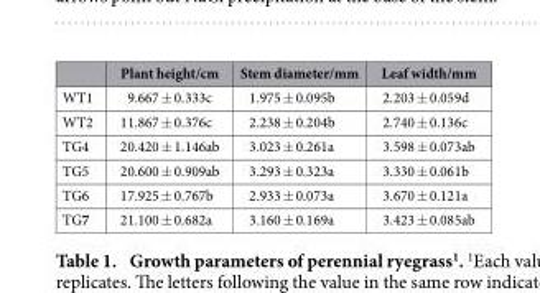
<table><thead><tr><td></td><td>Plant height/cm</td><td>Stem diameter/mm</td><td>Leaf width/mm</td></tr></thead><tbody><tr><td>WT1</td><td>9.667 ± 0.333c</td><td>1.975 ± 0.095b</td><td>2.203 ± 0.059d</td></tr><tr><td>WT2</td><td>11.867 ± 0.376c</td><td>2.238 ± 0.204b</td><td>2.740 ± 0.136c</td></tr><tr><td>TG4</td><td>20.420 ± 1.146ab</td><td>3.023 ± 0.261a</td><td>3.598 ± 0.073ab</td></tr><tr><td>TG5</td><td>20.600 ± 0.909ab</td><td>3.293 ± 0.323a</td><td>3.330 ± 0.061b</td></tr><tr><td>TG6</td><td>17.925 ± 0.767b</td><td>2.933 ± 0.073a</td><td>3.670 ± 0.121a</td></tr><tr><td>TG7</td><td>21.100 ± 0.682a</td><td>3.160 ± 0.169a</td><td>3.423 ± 0.085ab</td></tr></tbody></table>